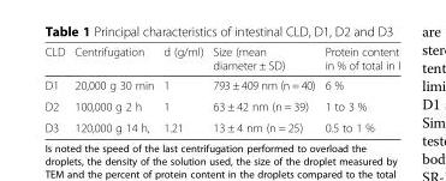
<table><thead><tr><td>CLD</td><td>Centrifugation</td><td>d (g/ml)</td><td>Size (mean diameter ± SD)</td><td>Protein content in % of total in I</td></tr></thead><tbody><tr><td>D1</td><td>20,000 g 30 min</td><td>1</td><td>793 ± 409 nm (n = 40)</td><td>6 %</td></tr><tr><td>D2</td><td>100,000 g 2 h</td><td>1</td><td>63 ± 42 nm (n = 39)</td><td>1 to 3 %</td></tr><tr><td>D3</td><td>120,000 g 14 h,</td><td>1.21</td><td>13 ± 4 nm (n = 25)</td><td>0.5 to 1 %</td></tr></tbody></table>